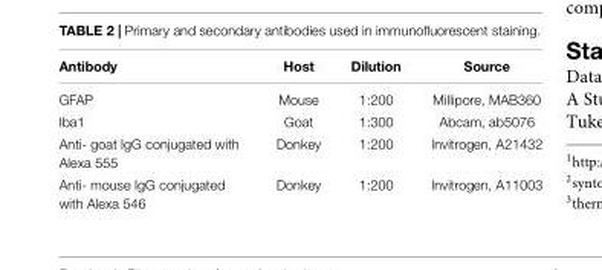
<table><thead><tr><td>Antibody</td><td>Host</td><td>Dilution</td><td>Source</td></tr></thead><tbody><tr><td>GFAP</td><td>Mouse</td><td>1:200</td><td>Millipore, MAB360</td></tr><tr><td>Iba1</td><td>Goat</td><td>1:300</td><td>Abcam, ab5076</td></tr><tr><td>Anti- goat IgG conjugated with Alexa 555</td><td>Donkey</td><td>1:200</td><td>Invitrogen, A21432</td></tr><tr><td>Anti- mouse IgG conjugated with Alexa 546</td><td>Donkey</td><td>1:200</td><td>Invitrogen, A11003</td></tr></tbody></table>